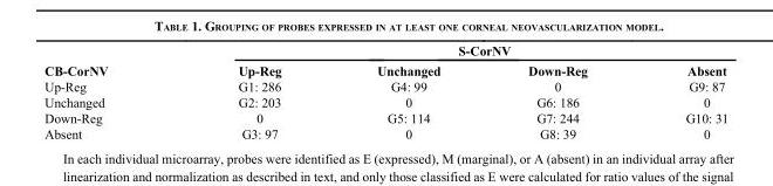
<table><thead><tr><td rowspan="2">CB-CorNV</td><td colspan="4">S-CorNV</td></tr><tr><td>Up-Reg</td><td>Unchanged</td><td>Down-Reg</td><td>Absent</td></tr></thead><tbody><tr><td>Up-Reg</td><td>G1: 286</td><td>G4: 99</td><td>0</td><td>G9: 87</td></tr><tr><td>Unchanged</td><td>G2: 203</td><td>0</td><td>G6: 186</td><td>0</td></tr><tr><td>Down-Reg</td><td>0</td><td>G5: 114</td><td>G7: 244</td><td>G10: 31</td></tr><tr><td>Absent</td><td>G3: 97</td><td>0</td><td>G8: 39</td><td>0</td></tr></tbody></table>